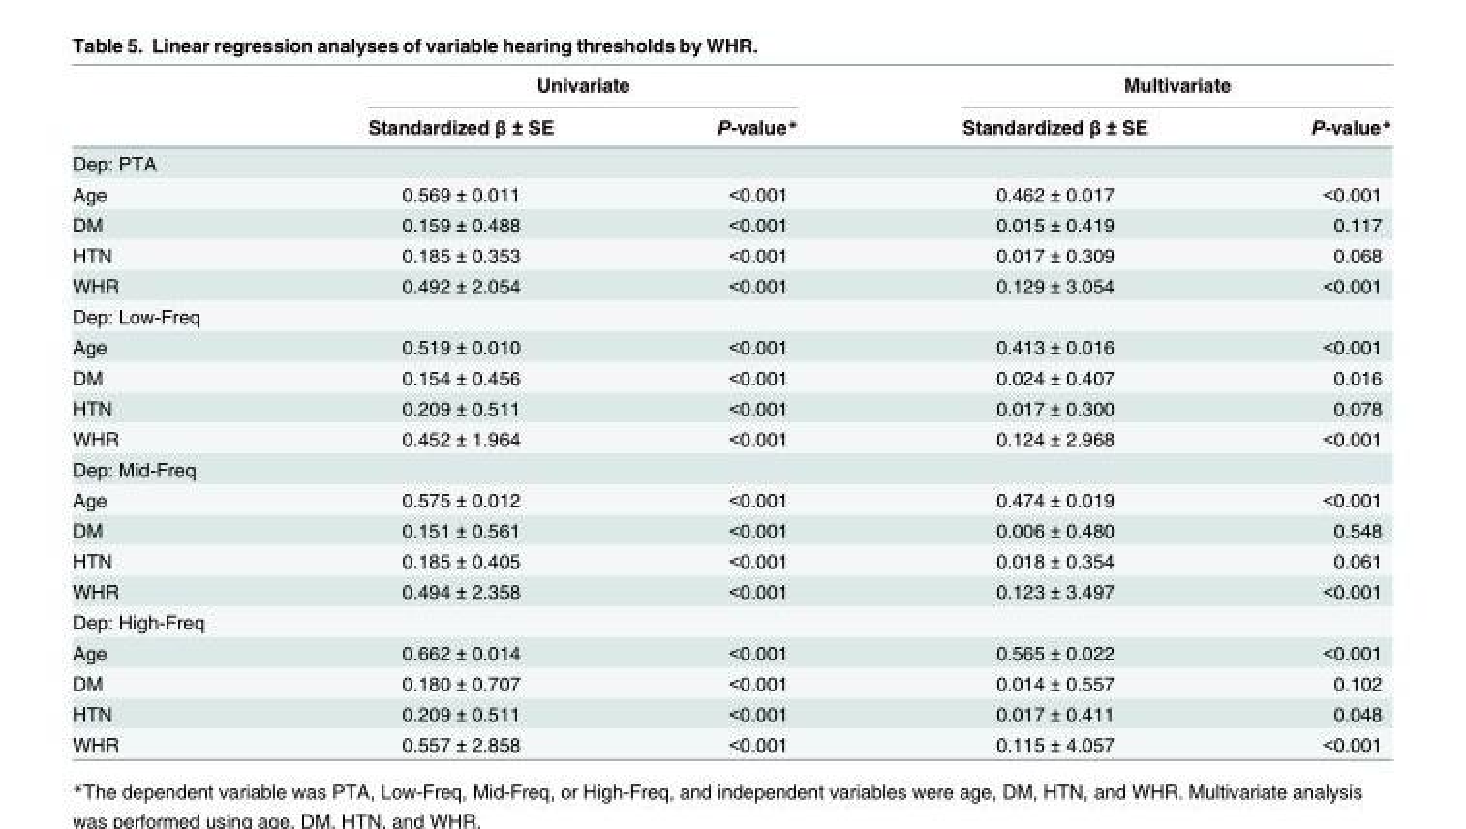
<table><thead><tr><td rowspan="2"></td><td colspan="2">Univariate</td><td colspan="2">Multivariate</td></tr><tr><td>Standardized β ± SE</td><td>P-value*</td><td>Standardized β ± SE</td><td>P-value*</td></tr></thead><tbody><tr><td colspan="5">Dep: PTA</td></tr><tr><td>Age</td><td>0.569 ± 0.011</td><td>&lt;0.001</td><td>0.462 ± 0.017</td><td>&lt;0.001</td></tr><tr><td>DM</td><td>0.159 ± 0.488</td><td>&lt;0.001</td><td>0.015 ± 0.419</td><td>0.117</td></tr><tr><td>HTN</td><td>0.185 ± 0.353</td><td>&lt;0.001</td><td>0.017 ± 0.309</td><td>0.068</td></tr><tr><td>WHR</td><td>0.492 ± 2.054</td><td>&lt;0.001</td><td>0.129 ± 3.054</td><td>&lt;0.001</td></tr><tr><td colspan="5">Dep: Low-Freq</td></tr><tr><td>Age</td><td>0.519 ± 0.010</td><td>&lt;0.001</td><td>0.413 ± 0.016</td><td>&lt;0.001</td></tr><tr><td>DM</td><td>0.154 ± 0.456</td><td>&lt;0.001</td><td>0.024 ± 0.407</td><td>0.016</td></tr><tr><td>HTN</td><td>0.209 ± 0.511</td><td>&lt;0.001</td><td>0.017 ± 0.300</td><td>0.078</td></tr><tr><td>WHR</td><td>0.452 ± 1.964</td><td>&lt;0.001</td><td>0.124 ± 2.968</td><td>&lt;0.001</td></tr><tr><td colspan="5">Dep: Mid-Freq</td></tr><tr><td>Age</td><td>0.575 ± 0.012</td><td>&lt;0.001</td><td>0.474 ± 0.019</td><td>&lt;0.001</td></tr><tr><td>DM</td><td>0.151 ± 0.561</td><td>&lt;0.001</td><td>0.006 ± 0.480</td><td>0.548</td></tr><tr><td>HTN</td><td>0.185 ± 0.405</td><td>&lt;0.001</td><td>0.018 ± 0.354</td><td>0.061</td></tr><tr><td>WHR</td><td>0.494 ± 2.358</td><td>&lt;0.001</td><td>0.123 ± 3.497</td><td>&lt;0.001</td></tr><tr><td colspan="5">Dep: High-Freq</td></tr><tr><td>Age</td><td>0.662 ± 0.014</td><td>&lt;0.001</td><td>0.565 ± 0.022</td><td>&lt;0.001</td></tr><tr><td>DM</td><td>0.180 ± 0.707</td><td>&lt;0.001</td><td>0.014 ± 0.557</td><td>0.102</td></tr><tr><td>HTN</td><td>0.209 ± 0.511</td><td>&lt;0.001</td><td>0.017 ± 0.411</td><td>0.048</td></tr><tr><td>WHR</td><td>0.557 ± 2.858</td><td>&lt;0.001</td><td>0.115 ± 4.057</td><td>&lt;0.001</td></tr></tbody></table>